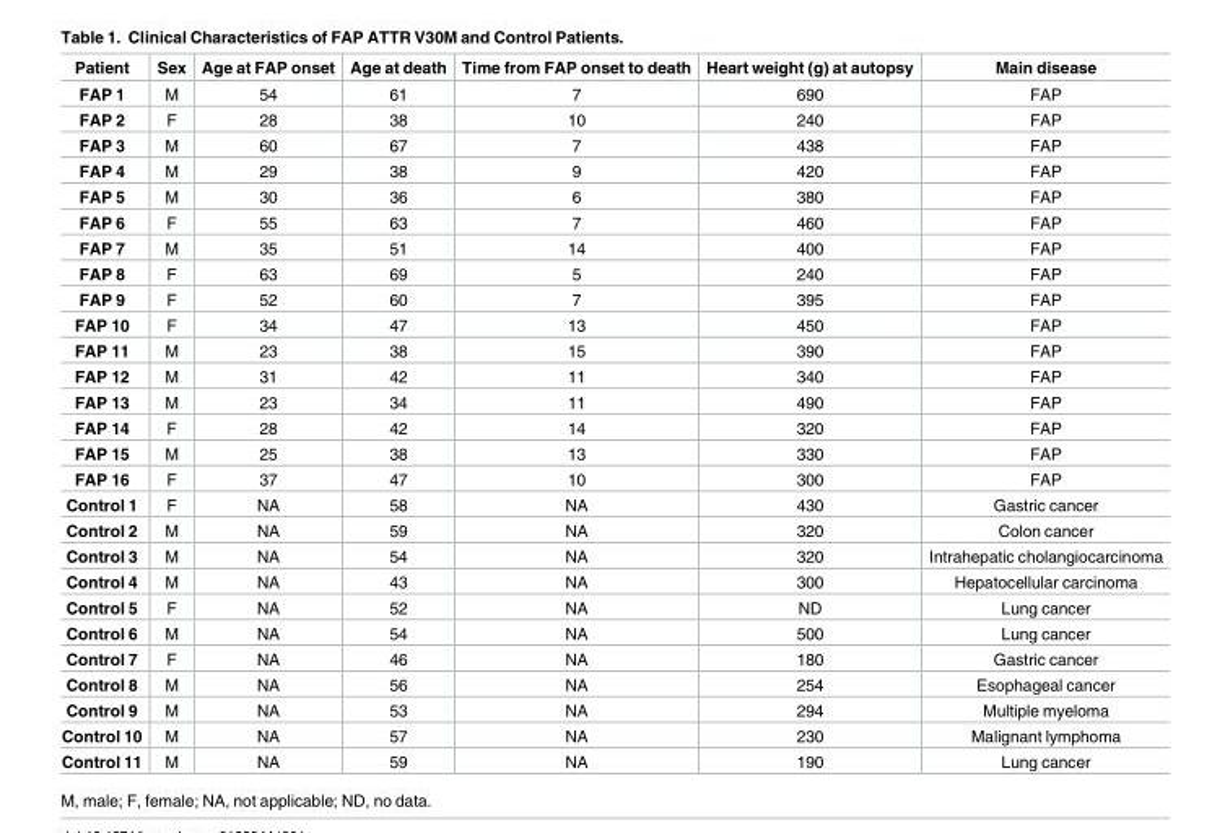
<table><thead><tr><td>Patient</td><td>Sex</td><td>Age at FAP onset</td><td>Age at death</td><td>Time from FAP onset to death</td><td>Heart weight (g) at autopsy</td><td>Main disease</td></tr></thead><tbody><tr><td>FAP 1</td><td>M</td><td>54</td><td>61</td><td>7</td><td>690</td><td>FAP</td></tr><tr><td>FAP 2</td><td>F</td><td>28</td><td>38</td><td>10</td><td>240</td><td>FAP</td></tr><tr><td>FAP 3</td><td>M</td><td>60</td><td>67</td><td>7</td><td>438</td><td>FAP</td></tr><tr><td>FAP 4</td><td>M</td><td>29</td><td>38</td><td>9</td><td>420</td><td>FAP</td></tr><tr><td>FAP 5</td><td>M</td><td>30</td><td>36</td><td>6</td><td>380</td><td>FAP</td></tr><tr><td>FAP 6</td><td>F</td><td>55</td><td>63</td><td>7</td><td>460</td><td>FAP</td></tr><tr><td>FAP 7</td><td>M</td><td>35</td><td>51</td><td>14</td><td>400</td><td>FAP</td></tr><tr><td>FAP 8</td><td>F</td><td>63</td><td>69</td><td>5</td><td>240</td><td>FAP</td></tr><tr><td>FAP 9</td><td>F</td><td>52</td><td>60</td><td>7</td><td>395</td><td>FAP</td></tr><tr><td>FAP 10</td><td>F</td><td>34</td><td>47</td><td>13</td><td>450</td><td>FAP</td></tr><tr><td>FAP 11</td><td>M</td><td>23</td><td>38</td><td>15</td><td>390</td><td>FAP</td></tr><tr><td>FAP 12</td><td>M</td><td>31</td><td>42</td><td>11</td><td>340</td><td>FAP</td></tr><tr><td>FAP 13</td><td>M</td><td>23</td><td>34</td><td>11</td><td>490</td><td>FAP</td></tr><tr><td>FAP 14</td><td>F</td><td>28</td><td>42</td><td>14</td><td>320</td><td>FAP</td></tr><tr><td>FAP 15</td><td>M</td><td>25</td><td>38</td><td>13</td><td>330</td><td>FAP</td></tr><tr><td>FAP 16</td><td>F</td><td>37</td><td>47</td><td>10</td><td>300</td><td>FAP</td></tr><tr><td>Control 1</td><td>F</td><td>NA</td><td>58</td><td>NA</td><td>430</td><td>Gastric cancer</td></tr><tr><td>Control 2</td><td>M</td><td>NA</td><td>59</td><td>NA</td><td>320</td><td>Colon cancer</td></tr><tr><td>Control 3</td><td>M</td><td>NA</td><td>54</td><td>NA</td><td>320</td><td>Intrahepatic cholangiocarcinoma</td></tr><tr><td>Control 4</td><td>M</td><td>NA</td><td>43</td><td>NA</td><td>300</td><td>Hepatocellular carcinoma</td></tr><tr><td>Control 5</td><td>F</td><td>NA</td><td>52</td><td>NA</td><td>ND</td><td>Lung cancer</td></tr><tr><td>Control 6</td><td>M</td><td>NA</td><td>54</td><td>NA</td><td>500</td><td>Lung cancer</td></tr><tr><td>Control 7</td><td>F</td><td>NA</td><td>46</td><td>NA</td><td>180</td><td>Gastric cancer</td></tr><tr><td>Control 8</td><td>M</td><td>NA</td><td>56</td><td>NA</td><td>254</td><td>Esophageal cancer</td></tr><tr><td>Control 9</td><td>M</td><td>NA</td><td>53</td><td>NA</td><td>294</td><td>Multiple myeloma</td></tr><tr><td>Control 10</td><td>M</td><td>NA</td><td>57</td><td>NA</td><td>230</td><td>Malignant lymphoma</td></tr><tr><td>Control 11</td><td>M</td><td>NA</td><td>59</td><td>NA</td><td>190</td><td>Lung cancer</td></tr></tbody></table>